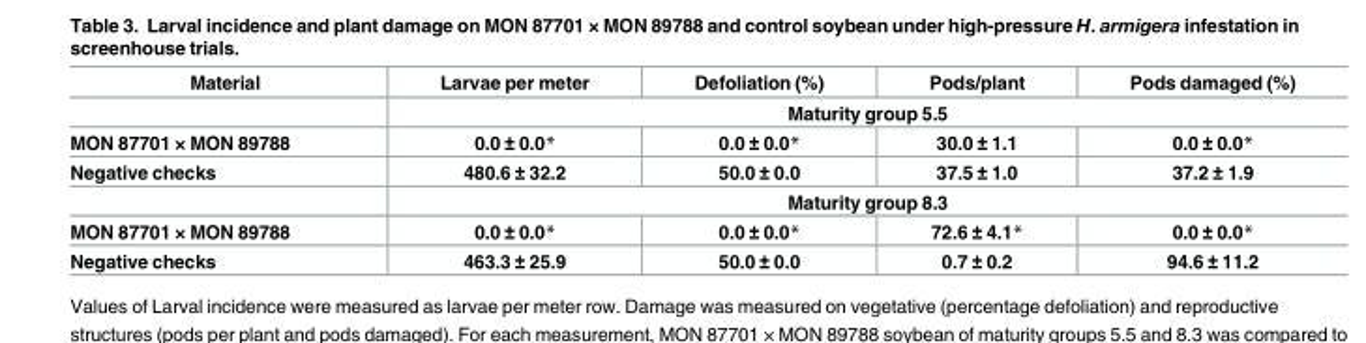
<table><thead><tr><td>Material</td><td>Larvae per meter</td><td>Defoliation (%)</td><td>Pods/plant</td><td>Pods damaged (%)</td></tr></thead><tbody><tr><td></td><td colspan="4">Maturity group 5.5</td></tr><tr><td>MON 87701 × MON 89788</td><td>0.0 ± 0.0*</td><td>0.0 ± 0.0*</td><td>30.0 ± 1.1</td><td>0.0 ± 0.0*</td></tr><tr><td rowspan="2">Negative checks</td><td>480.6 ± 32.2</td><td>50.0 ± 0.0</td><td>37.5 ± 1.0</td><td>37.2 ± 1.9</td></tr><tr><td colspan="4">Maturity group 8.3</td></tr><tr><td>MON 87701 × MON 89788</td><td>0.0 ± 0.0*</td><td>0.0 ± 0.0*</td><td>72.6 ± 4.1*</td><td>0.0 ± 0.0*</td></tr><tr><td>Negative checks</td><td>463.3 ± 25.9</td><td>50.0 ± 0.0</td><td>0.7 ± 0.2</td><td>94.6 ± 11.2</td></tr></tbody></table>